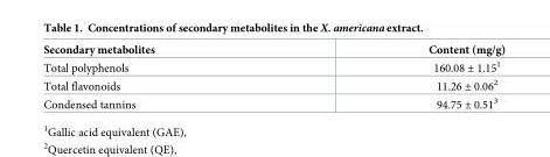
<table><thead><tr><td>Secondary metabolites</td><td>Content (mg/g)</td></tr></thead><tbody><tr><td>Total polyphenols</td><td>160.08 ± 1.15<sup>1</sup></td></tr><tr><td>Total flavonoids</td><td>11.26 ± 0.06<sup>2</sup></td></tr><tr><td>Condensed tannins</td><td>94.75 ± 0.51<sup>3</sup></td></tr></tbody></table>